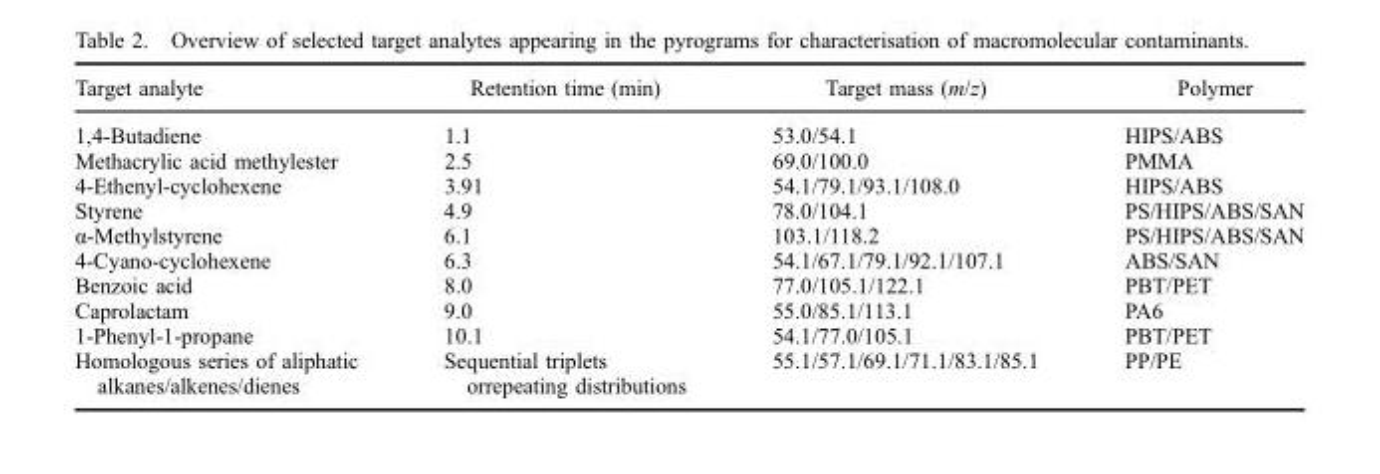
<table><thead><tr><td>Target analyte</td><td>Retention time (min)</td><td>Target mass (m/z)</td><td>Polymer</td></tr></thead><tbody><tr><td>1,4-Butadiene</td><td>1.1</td><td>53.0/54.1</td><td>HIPS/ABS</td></tr><tr><td>Methacrylic acid methylester</td><td>2.5</td><td>69.0/100.0</td><td>PMMA</td></tr><tr><td>4-Ethenyl-cyclohexene</td><td>3.91</td><td>54.1/79.1/93.1/108.0</td><td>HIPS/ABS</td></tr><tr><td>Styrene</td><td>4.9</td><td>78.0/104.1</td><td>PS/HIPS/ABS/SAN</td></tr><tr><td>α-Methylstyrene</td><td>6.1</td><td>103.1/118.2</td><td>PS/HIPS/ABS/SAN</td></tr><tr><td>4-Cyano-cyclohexene</td><td>6.3</td><td>54.1/67.1/79.1/92.1/107.1</td><td>ABS/SAN</td></tr><tr><td>Benzoic acid</td><td>8.0</td><td>77.0/105.1/122.1</td><td>PBT/PET</td></tr><tr><td>Caprolactam</td><td>9.0</td><td>55.0/85.1/113.1</td><td>PA6</td></tr><tr><td>1-Phenyl-1-propane</td><td>10.1</td><td>54.1/77.0/105.1</td><td>PBT/PET</td></tr><tr><td>Homologous series of aliphatic alkanes/alkenes/dienes</td><td>Sequential triplets orrepeating distributions</td><td>55.1/57.1/69.1/71.1/83.1/85.1</td><td>PP/PE</td></tr></tbody></table>